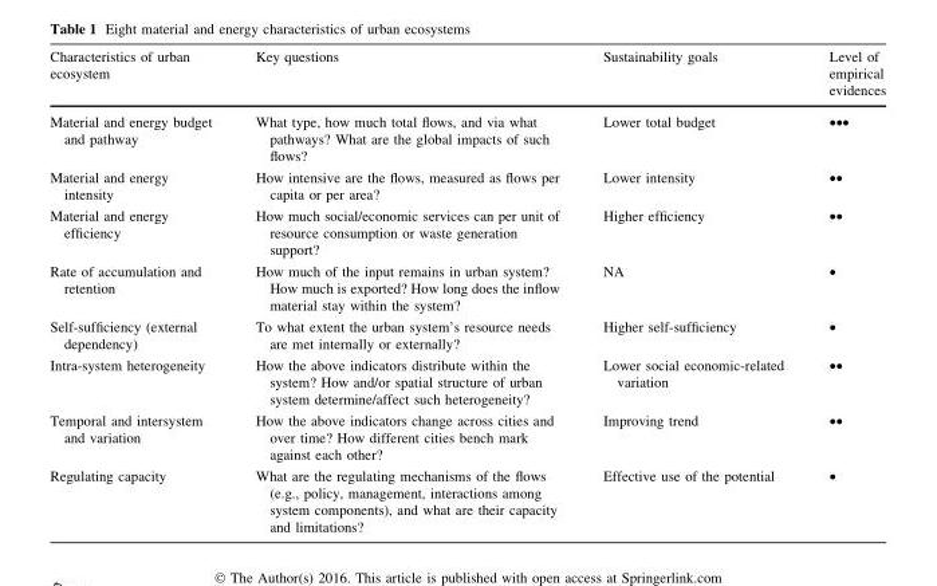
<table><thead><tr><td>Characteristics of urban ecosystem</td><td>Key questions</td><td>Sustainability goals</td><td>Level of empirical evidences</td></tr></thead><tbody><tr><td>Material and energy budget and pathway</td><td>What type, how much total flows, and via what pathways? What are the global impacts of such flows?</td><td>Lower total budget</td><td>•••</td></tr><tr><td>Material and energy intensity</td><td>How intensive are the flows, measured as flows per capita or per area?</td><td>Lower intensity</td><td>••</td></tr><tr><td>Material and energy efficiency</td><td>How much social/economic services can per unit of resource consumption or waste generation support?</td><td>Higher efficiency</td><td>••</td></tr><tr><td>Rate of accumulation and retention</td><td>How much of the input remains in urban system? How much is exported? How long does the inflow material stay within the system?</td><td>NA</td><td>•</td></tr><tr><td>Self-sufficiency (external dependency)</td><td>To what extent the urban system’s resource needs are met internally or externally?</td><td>Higher self-sufficiency</td><td>•</td></tr><tr><td>Intra-system heterogeneity</td><td>How the above indicators distribute within the system? How and/or spatial structure of urban system determine/affect such heterogeneity?</td><td>Lower social economic-related variation</td><td>••</td></tr><tr><td>Temporal and intersystem and variation</td><td>How the above indicators change across cities and over time? How different cities bench mark against each other?</td><td>Improving trend</td><td>••</td></tr><tr><td>Regulating capacity</td><td>What are the regulating mechanisms of the flows (e.g., policy, management, interactions among system components), and what are their capacity and limitations?</td><td>Effective use of the potential</td><td>•</td></tr></tbody></table>